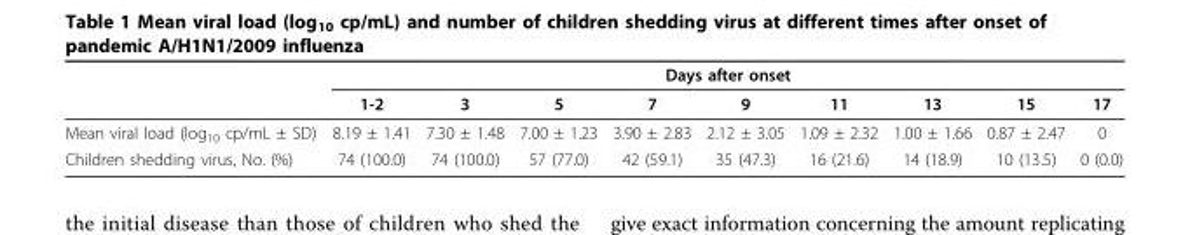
<table><thead><tr><td rowspan="2"></td><td colspan="9">Days after onset</td></tr><tr><td>1-2</td><td>3</td><td>5</td><td>7</td><td>9</td><td>11</td><td>13</td><td>15</td><td>17</td></tr></thead><tbody><tr><td>Mean viral load (log<sub>10</sub> cp/mL ± SD)</td><td>8.19 ± 1.41</td><td>7.30 ± 1.48</td><td>7.00 ± 1.23</td><td>3.90 ± 2.83</td><td>2.12 ± 3.05</td><td>1.09 ± 2.32</td><td>1.00 ± 1.66</td><td>0.87 ± 2.47</td><td>0</td></tr><tr><td>Children shedding virus, No. (%)</td><td>74 (100.0)</td><td>74 (100.0)</td><td>57 (77.0)</td><td>42 (59.1)</td><td>35 (47.3)</td><td>16 (21.6)</td><td>14 (18.9)</td><td>10 (13.5)</td><td>0 (0.0)</td></tr></tbody></table>